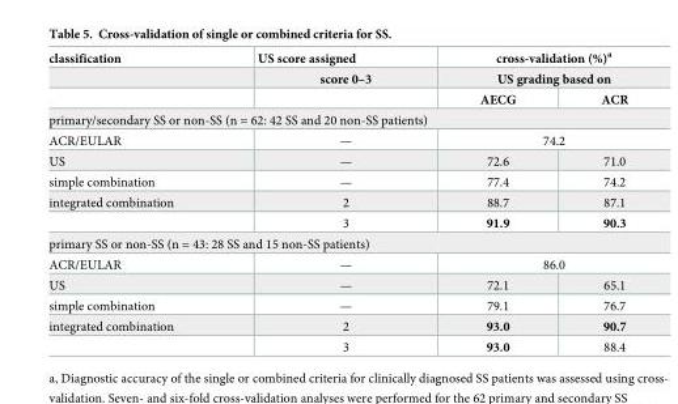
<table><thead><tr><td rowspan="3">classification</td><td rowspan="3">US score assigned score 0–3</td><td rowspan="2" colspan="2">cross-validation (%)<sup>a</sup> US grading based on</td></tr><tr></tr><tr><td>AECG</td><td>ACR</td></tr></thead><tbody><tr><td colspan="4">primary/secondary SS or non-SS (n = 62: 42 SS and 20 non-SS patients)</td></tr><tr><td>ACR/EULAR</td><td>—</td><td colspan="2">74.2</td></tr><tr><td>US</td><td>—</td><td>72.6</td><td>71.0</td></tr><tr><td>simple combination</td><td>—</td><td>77.4</td><td>74.2</td></tr><tr><td rowspan="2">integrated combination</td><td>2</td><td>88.7</td><td>87.1</td></tr><tr><td>3</td><td>91.9</td><td>90.3</td></tr><tr><td colspan="4">primary SS or non-SS (n = 43: 28 SS and 15 non-SS patients)</td></tr><tr><td>ACR/EULAR</td><td>—</td><td colspan="2">86.0</td></tr><tr><td>US</td><td>—</td><td>72.1</td><td>65.1</td></tr><tr><td>simple combination</td><td>—</td><td>79.1</td><td>76.7</td></tr><tr><td rowspan="2">integrated combination</td><td>2</td><td>93.0</td><td>90.7</td></tr><tr><td>3</td><td>93.0</td><td>88.4</td></tr></tbody></table>